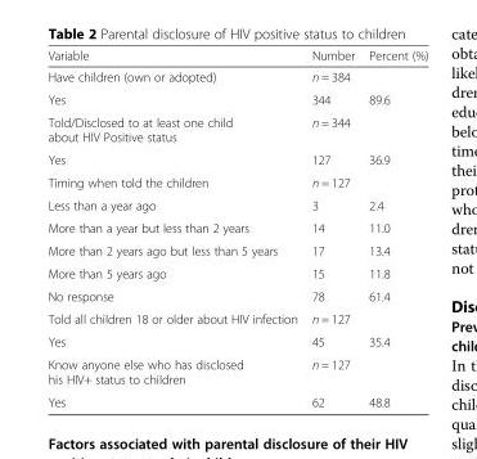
<table><thead><tr><td>Variable</td><td>Number</td><td>Percent (%)</td></tr></thead><tbody><tr><td>Have children (own or adopted)</td><td>n = 384</td><td></td></tr><tr><td>Yes</td><td>344</td><td>89.6</td></tr><tr><td>Told/Disclosed to at least one child about HIV Positive status</td><td>n = 344</td><td></td></tr><tr><td>Yes</td><td>127</td><td>36.9</td></tr><tr><td>Timing when told the children</td><td>n = 127</td><td></td></tr><tr><td>Less than a year ago</td><td>3</td><td>2.4</td></tr><tr><td>More than a year but less than 2 years</td><td>14</td><td>11.0</td></tr><tr><td>More than 2 years ago but less than 5 years</td><td>17</td><td>13.4</td></tr><tr><td>More than 5 years ago</td><td>15</td><td>11.8</td></tr><tr><td>No response</td><td>78</td><td>61.4</td></tr><tr><td>Told all children 18 or older about HIV infection</td><td>n = 127</td><td></td></tr><tr><td>Yes</td><td>45</td><td>35.4</td></tr><tr><td>Know anyone else who has disclosed his HIV+ status to children</td><td>n = 127</td><td></td></tr><tr><td>Yes</td><td>62</td><td>48.8</td></tr></tbody></table>